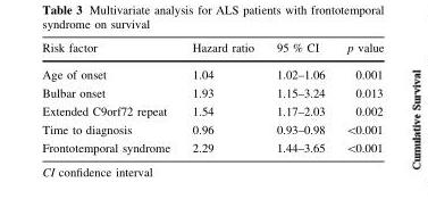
<table><thead><tr><td>Risk factor</td><td>Hazard ratio</td><td>95 % CI</td><td>p value</td></tr></thead><tbody><tr><td>Age of onset</td><td>1.04</td><td>1.02–1.06</td><td>0.001</td></tr><tr><td>Bulbar onset</td><td>1.93</td><td>1.15–3.24</td><td>0.013</td></tr><tr><td>Extended C9orf72 repeat</td><td>1.54</td><td>1.17–2.03</td><td>0.002</td></tr><tr><td>Time to diagnosis</td><td>0.96</td><td>0.93–0.98</td><td>&lt;0.001</td></tr><tr><td>Frontotemporal syndrome</td><td>2.29</td><td>1.44–3.65</td><td>&lt;0.001</td></tr></tbody></table>